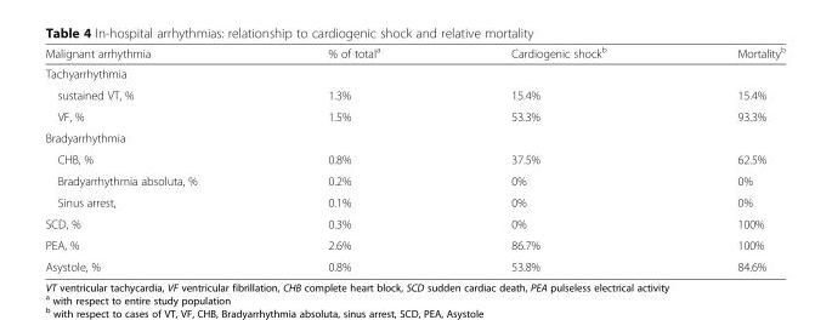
<table><thead><tr><td>Malignant arrhythmia</td><td>% of total<sup>a</sup></td><td>Cardiogenic shock<sup>b</sup></td><td>Mortality<sup>b</sup></td></tr></thead><tbody><tr><td colspan="4">Tachyarrhythmia</td></tr><tr><td>sustained VT, %</td><td>1.3%</td><td>15.4%</td><td>15.4%</td></tr><tr><td>VF, %</td><td>1.5%</td><td>53.3%</td><td>93.3%</td></tr><tr><td colspan="4">Bradyarrhythmia</td></tr><tr><td>CHB, %</td><td>0.8%</td><td>37.5%</td><td>62.5%</td></tr><tr><td>Bradyarrhythmia absoluta, %</td><td>0.2%</td><td>0%</td><td>0%</td></tr><tr><td>Sinus arrest,</td><td>0.1%</td><td>0%</td><td>0%</td></tr><tr><td>SCD, %</td><td>0.3%</td><td>0%</td><td>100%</td></tr><tr><td>PEA, %</td><td>2.6%</td><td>86.7%</td><td>100%</td></tr><tr><td>Asystole, %</td><td>0.8%</td><td>53.8%</td><td>84.6%</td></tr></tbody></table>